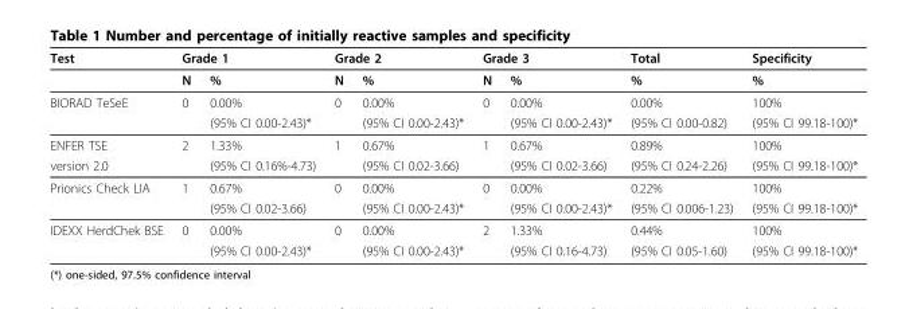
<table><thead><tr><td rowspan="2">Test</td><td colspan="2">Grade 1</td><td colspan="2">Grade 2</td><td colspan="2">Grade 3</td><td rowspan="2">Total %</td><td rowspan="2">Specificity %</td></tr><tr><td>N</td><td>%</td><td>N</td><td>%</td><td>N</td><td>%</td></tr></thead><tbody><tr><td rowspan="2">BIORAD TeSeE</td><td>0</td><td>0.00%</td><td>0</td><td>0.00%</td><td>0</td><td>0.00%</td><td>0.00%</td><td>100%</td></tr><tr><td></td><td>(95% CI 0.00-2.43)*</td><td></td><td>(95% CI 0.00-2.43)*</td><td></td><td>(95% CI 0.00-2.43)*</td><td>(95% CI 0.00-0.82)</td><td>(95% CI 99.18-100)*</td></tr><tr><td>ENFER TSE</td><td>2</td><td>1.33%</td><td>1</td><td>0.67%</td><td>1</td><td>0.67%</td><td>0.89%</td><td>100%</td></tr><tr><td>version 2.0</td><td></td><td>(95% CI 0.16%-4.73)</td><td></td><td>(95% CI 0.02-3.66)</td><td></td><td>(95% CI 0.02-3.66)</td><td>(95% CI 0.24-2.26)</td><td>(95% CI 99.18-100)*</td></tr><tr><td rowspan="2">Prionics Check LIA</td><td>1</td><td>0.67%</td><td>0</td><td>0.00%</td><td>0</td><td>0.00%</td><td>0.22%</td><td>100%</td></tr><tr><td></td><td>(95% CI 0.02-3.66)</td><td></td><td>(95% CI 0.00-2.43)*</td><td></td><td>(95% CI 0.00-2.43)*</td><td>(95% CI 0.006-1.23)</td><td>(95% CI 99.18-100)*</td></tr><tr><td rowspan="2">IDEXX HerdChek BSE</td><td>0</td><td>0.00%</td><td>0</td><td>0.00%</td><td>2</td><td>1.33%</td><td>0.44%</td><td>100%</td></tr><tr><td></td><td>(95% CI 0.00-2.43)*</td><td></td><td>(95% CI 0.00-2.43)*</td><td></td><td>(95% CI 0.16-4.73)</td><td>(95% CI 0.05-1.60)</td><td>(95% CI 99.18-100)*</td></tr></tbody></table>